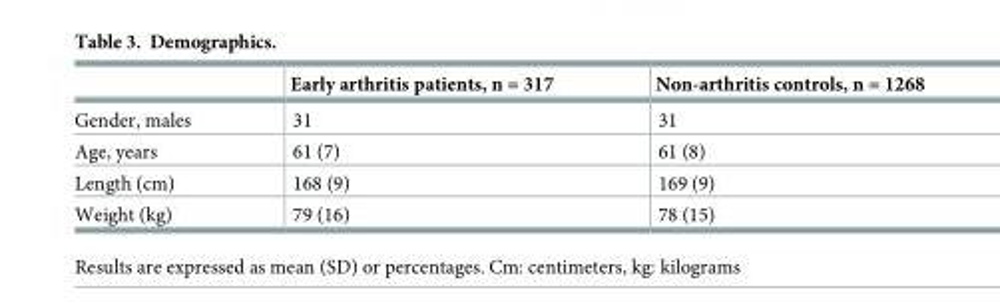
<table><thead><tr><td></td><td>Early arthritis patients, n = 317</td><td>Non-arthritis controls, n = 1268</td></tr></thead><tbody><tr><td>Gender, males</td><td>31</td><td>31</td></tr><tr><td>Age, years</td><td>61 (7)</td><td>61 (8)</td></tr><tr><td>Length (cm)</td><td>168 (9)</td><td>169 (9)</td></tr><tr><td>Weight (kg)</td><td>79 (16)</td><td>78 (15)</td></tr></tbody></table>